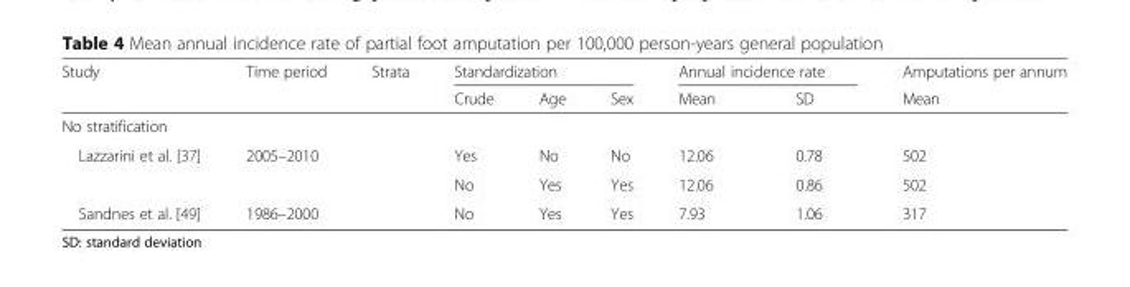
<table><thead><tr><td rowspan="2">Study</td><td rowspan="2">Time period</td><td rowspan="2">Strata</td><td colspan="3">Standardization</td><td colspan="2">Annual incidence rate</td><td rowspan="2">Amputations per annum Mean</td></tr><tr><td>Crude</td><td>Age</td><td>Sex</td><td>Mean</td><td>SD</td></tr></thead><tbody><tr><td colspan="9">No stratification</td></tr><tr><td rowspan="2">Lazzarini et al. [37]</td><td>2005–2010</td><td></td><td>Yes</td><td>No</td><td>No</td><td>12.06</td><td>0.78</td><td>502</td></tr><tr><td></td><td></td><td>No</td><td>Yes</td><td>Yes</td><td>12.06</td><td>0.86</td><td>502</td></tr><tr><td>Sandnes et al. [49]</td><td>1986–2000</td><td></td><td>No</td><td>Yes</td><td>Yes</td><td>7.93</td><td>1.06</td><td>317</td></tr></tbody></table>